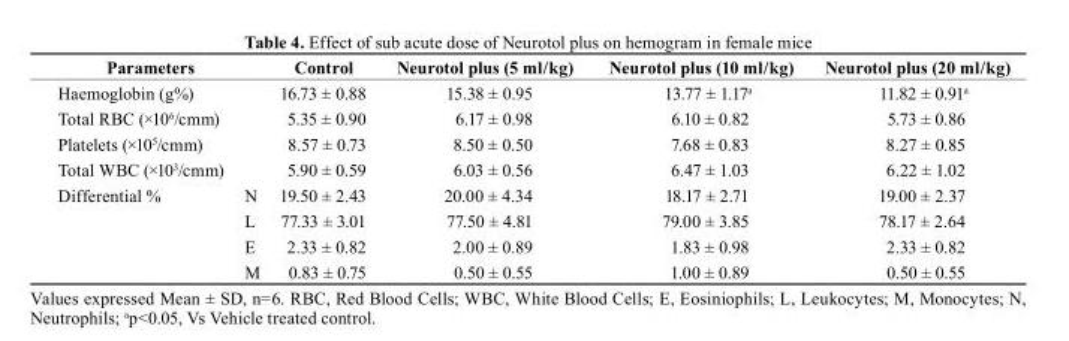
<table><thead><tr><td colspan="2">Parameters</td><td>control</td><td>Neurotol plus (5 ml/kg)</td><td>Neurotol plus (10 ml/kg)</td><td>Neurotol plus (20 ml/kg)</td></tr></thead><tbody><tr><td colspan="2">Haemoglobin (g%)</td><td>16.73 ± 0.88</td><td>15.38 ± 0.95</td><td>13.77 ± 1.17<sup>a</sup></td><td>11.82 ± 0.91<sup>a</sup></td></tr><tr><td colspan="2">Total RBC (×10<sup>6</sup>/cmm)</td><td>5.35 ± 0.90</td><td>6.17 ± 0.98</td><td>6.10 ± 0.82</td><td>5.73 ± 0.86</td></tr><tr><td colspan="2">Platelets (×10<sup>5</sup>/cmm)</td><td>8.57 ± 0.73</td><td>8.50 ± 0.50</td><td>7.68 ± 0.83</td><td>8.27 ± 0.85</td></tr><tr><td colspan="2">Total WBC (×10<sup>3</sup>/cmm)</td><td>5.90 ± 0.59</td><td>6.03 ± 0.56</td><td>6.47 ± 1.03</td><td>6.22 ± 1.02</td></tr><tr><td rowspan="4">Differential %</td><td>N</td><td>19.50 ± 2.43</td><td>20.00 ± 4.34</td><td>18.17 ± 2.71</td><td>19.00 ± 2.37</td></tr><tr><td>L</td><td>77.33 ± 3.01</td><td>77.50 ± 4.81</td><td>79.00 ± 3.85</td><td>78.17 ± 2.64</td></tr><tr><td>E</td><td>2.33 ± 0.82</td><td>2.00 ± 0.89</td><td>1.83 ± 0.98</td><td>2.33 ± 0.82</td></tr><tr><td>M</td><td>0.83 ± 0.75</td><td>0.50 ± 0.55</td><td>1.00 ± 0.89</td><td>0.50 ± 0.55</td></tr></tbody></table>